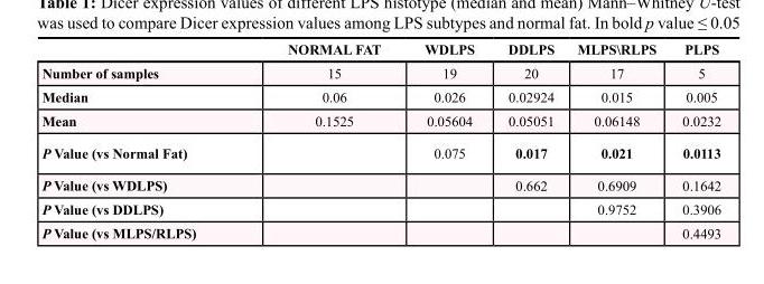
<table><thead><tr><td></td><td>NORMAL FAT</td><td>WDLPS</td><td>DDLPS</td><td>MLPS\RLPS</td><td>PLPS</td></tr></thead><tbody><tr><td>Number of samples</td><td>15</td><td>19</td><td>20</td><td>17</td><td>5</td></tr><tr><td>Median</td><td>0.06</td><td>0.026</td><td>0.02924</td><td>0.015</td><td>0.005</td></tr><tr><td>Mean</td><td>0.1525</td><td>0.05604</td><td>0.05051</td><td>0.06148</td><td>0.0232</td></tr><tr><td>P Value (vs Normal Fat)</td><td></td><td>0.075</td><td>0.017</td><td>0.021</td><td>0.0113</td></tr><tr><td>P Value (vs WDLPS)</td><td></td><td></td><td>0.662</td><td>0.6909</td><td>0.1642</td></tr><tr><td>P Value (vs DDLPS)</td><td></td><td></td><td></td><td>0.9752</td><td>0.3906</td></tr><tr><td>P Value (vs MLPS/RLPS)</td><td></td><td></td><td></td><td></td><td>0.4493</td></tr></tbody></table>